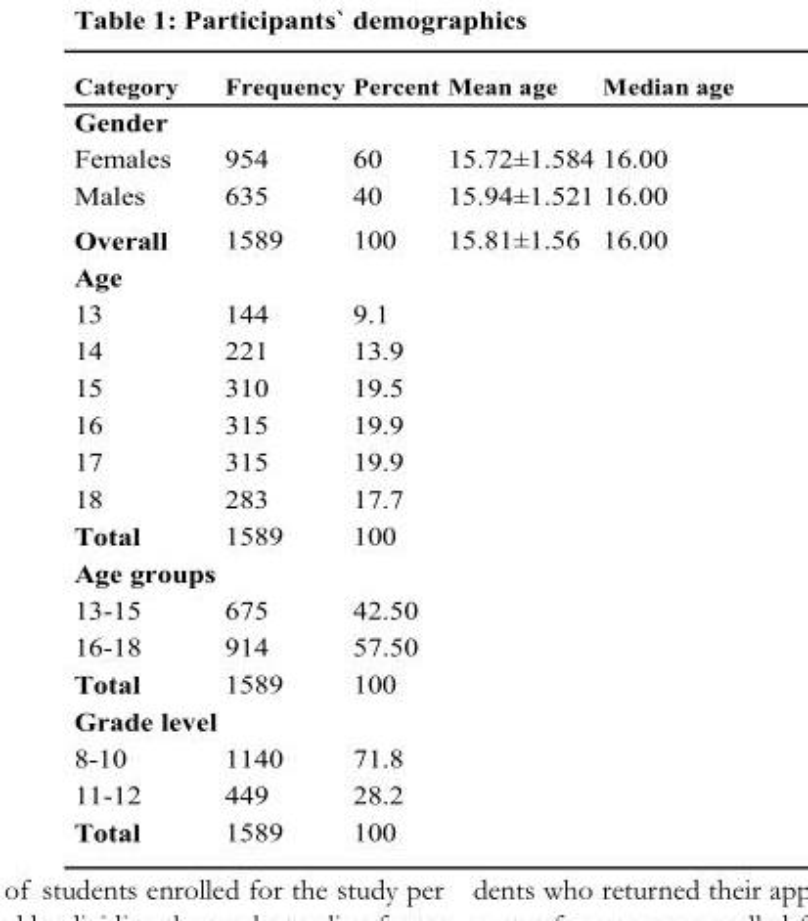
<table><thead><tr><td>Category</td><td>Frequency</td><td>Percent</td><td>Mean age</td><td>Median age</td></tr></thead><tbody><tr><td colspan="5">Gender</td></tr><tr><td>Females</td><td>954</td><td>60</td><td>15.72±1.584</td><td>16.00</td></tr><tr><td>Males</td><td>635</td><td>40</td><td>15.94±1.521</td><td>16.00</td></tr><tr><td>Overall</td><td>1589</td><td>100</td><td>15.81±1.56</td><td>16.00</td></tr><tr><td colspan="5">Age</td></tr><tr><td>13</td><td>144</td><td>9.1</td><td></td><td></td></tr><tr><td>14</td><td>221</td><td>13.9</td><td></td><td></td></tr><tr><td>15</td><td>310</td><td>19.5</td><td></td><td></td></tr><tr><td>16</td><td>315</td><td>19.9</td><td></td><td></td></tr><tr><td>17</td><td>315</td><td>19.9</td><td></td><td></td></tr><tr><td>18</td><td>283</td><td>17.7</td><td></td><td></td></tr><tr><td>Total</td><td>1589</td><td>100</td><td></td><td></td></tr><tr><td colspan="5">Age groups</td></tr><tr><td>13-15</td><td>675</td><td>42.50</td><td></td><td></td></tr><tr><td>16-18</td><td>914</td><td>57.50</td><td></td><td></td></tr><tr><td>Total</td><td>1589</td><td>100</td><td></td><td></td></tr><tr><td colspan="5">Grade level</td></tr><tr><td>8-10</td><td>1140</td><td>71.8</td><td></td><td></td></tr><tr><td>11-12</td><td>449</td><td>28.2</td><td></td><td></td></tr><tr><td>Total</td><td>1589</td><td>100</td><td></td><td></td></tr></tbody></table>